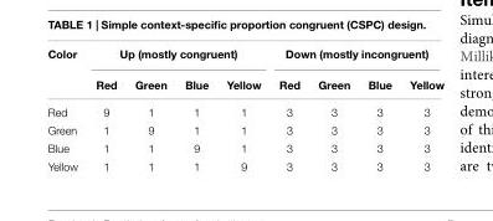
<table><thead><tr><td rowspan="2">Color</td><td colspan="4">Up (mostly congruent)</td><td colspan="4">Down (mostly incongruent)</td></tr><tr><td>Red</td><td>Green</td><td>Blue</td><td>Yellow</td><td>Red</td><td>Green</td><td>Blue</td><td>Yellow</td></tr></thead><tbody><tr><td>Red</td><td>9</td><td>1</td><td>1</td><td>1</td><td>3</td><td>3</td><td>3</td><td>3</td></tr><tr><td>Green</td><td>1</td><td>9</td><td>1</td><td>1</td><td>3</td><td>3</td><td>3</td><td>3</td></tr><tr><td>Blue</td><td>1</td><td>1</td><td>9</td><td>1</td><td>3</td><td>3</td><td>3</td><td>3</td></tr><tr><td>Yellow</td><td>1</td><td>1</td><td>1</td><td>9</td><td>3</td><td>3</td><td>3</td><td>3</td></tr></tbody></table>